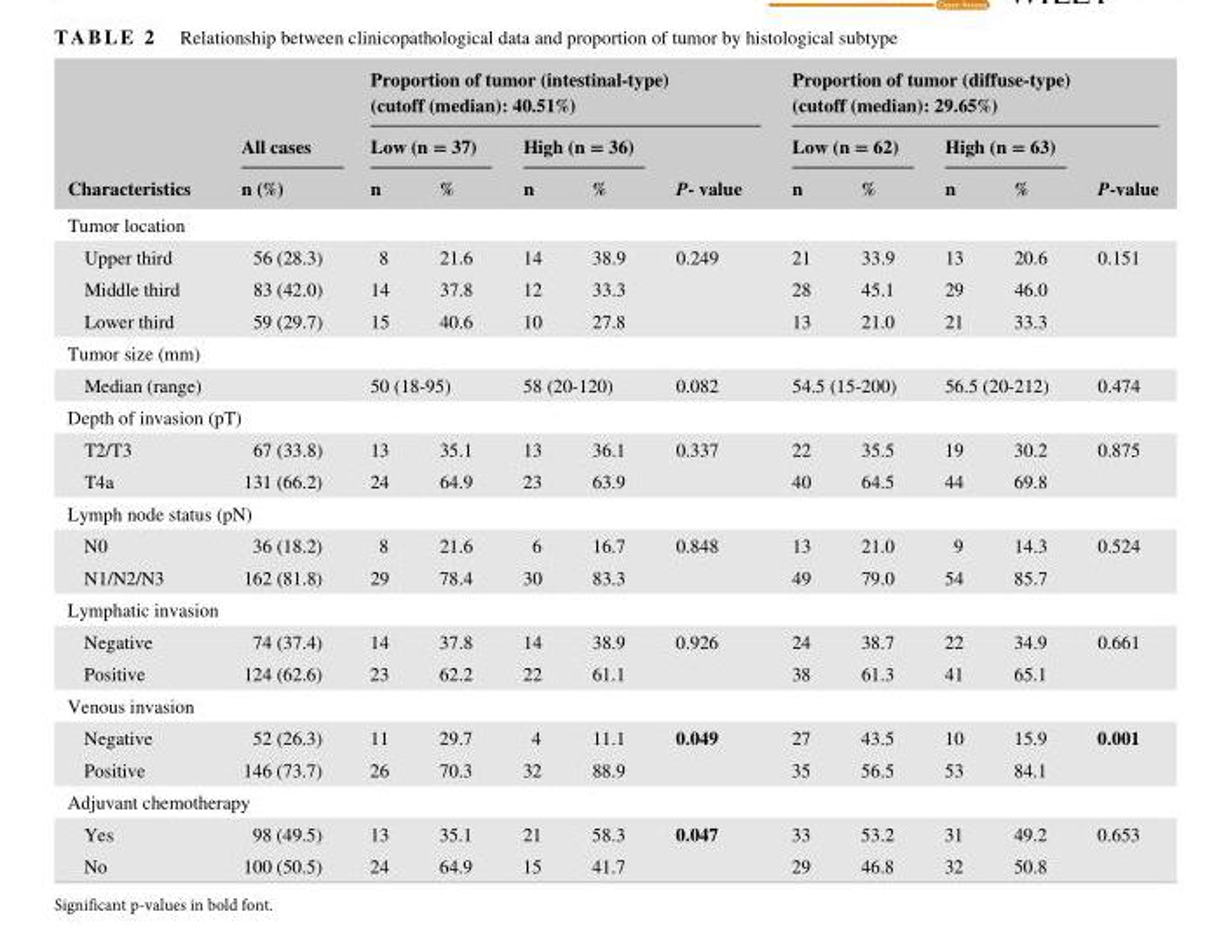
<table><thead><tr><td rowspan="3">Characteristics</td><td rowspan="3">All cases n (%)</td><td colspan="5">Proportion of tumor (intestinal-type) (cutoff (median): 40.51%)</td><td colspan="5">Proportion of tumor (diffuse-type) (cutoff (median): 29.65%)</td></tr><tr><td colspan="2">Low (n = 37)</td><td colspan="2">High (n = 36)</td><td rowspan="2">P- value</td><td colspan="2">Low (n = 62)</td><td colspan="2">High (n = 63)</td><td rowspan="2">P- value</td></tr><tr><td>n</td><td>%</td><td>n</td><td>%</td><td>n</td><td>%</td><td>n</td><td>%</td></tr></thead><tbody><tr><td colspan="12">Tumor location</td></tr><tr><td>Upper third</td><td>56 (28.3)</td><td>8</td><td>21.6</td><td>14</td><td>38.9</td><td rowspan="3">0.249</td><td>21</td><td>33.9</td><td>13</td><td>20.6</td><td rowspan="3">0.151</td></tr><tr><td>Middle third</td><td>83 (42.0)</td><td>14</td><td>37.8</td><td>12</td><td>33.3</td><td>28</td><td>45.1</td><td>29</td><td>46.0</td></tr><tr><td>Lower third</td><td>59 (29.7)</td><td>15</td><td>40.6</td><td>10</td><td>27.8</td><td>13</td><td>21.0</td><td>21</td><td>33.3</td></tr><tr><td colspan="12">Tumor size (mm)</td></tr><tr><td>Median (range)</td><td></td><td colspan="2">50 (18- 95)</td><td colspan="2">58 (20- 120)</td><td>0.082</td><td colspan="2">54.5 (15- 200)</td><td colspan="2">56.5 (20- 212)</td><td>0.474</td></tr><tr><td colspan="12">Depth of invasion (pT)</td></tr><tr><td>T2/T3</td><td>67 (33.8)</td><td>13</td><td>35.1</td><td>13</td><td>36.1</td><td rowspan="2">0.337</td><td>22</td><td>35.5</td><td>19</td><td>30.2</td><td rowspan="2">0.875</td></tr><tr><td>T4a</td><td>131 (66.2)</td><td>24</td><td>64.9</td><td>23</td><td>63.9</td><td>40</td><td>64.5</td><td>44</td><td>69.8</td></tr><tr><td colspan="12">Lymph node status (pN)</td></tr><tr><td>N0</td><td>36 (18.2)</td><td>8</td><td>21.6</td><td>6</td><td>16.7</td><td rowspan="2">0.848</td><td>13</td><td>21.0</td><td>9</td><td>14.3</td><td rowspan="2">0.524</td></tr><tr><td>N1/N2/N3</td><td>162 (81.8)</td><td>29</td><td>78.4</td><td>30</td><td>83.3</td><td>49</td><td>79.0</td><td>54</td><td>85.7</td></tr><tr><td colspan="12">Lymphatic invasion</td></tr><tr><td>Negative</td><td>74 (37.4)</td><td>14</td><td>37.8</td><td>14</td><td>38.9</td><td rowspan="2">0.926</td><td>24</td><td>38.7</td><td>22</td><td>34.9</td><td rowspan="2">0.661</td></tr><tr><td>Positive</td><td>124 (62.6)</td><td>23</td><td>62.2</td><td>22</td><td>61.1</td><td>38</td><td>61.3</td><td>41</td><td>65.1</td></tr><tr><td colspan="12">Venous invasion</td></tr><tr><td>Negative</td><td>52 (26.3)</td><td>11</td><td>29.7</td><td>4</td><td>11.1</td><td rowspan="2">0.049</td><td>27</td><td>43.5</td><td>10</td><td>15.9</td><td rowspan="2">0.001</td></tr><tr><td>Positive</td><td>146 (73.7)</td><td>26</td><td>70.3</td><td>32</td><td>88.9</td><td>35</td><td>56.5</td><td>53</td><td>84.1</td></tr><tr><td colspan="12">Adjuvant chemotherapy</td></tr><tr><td>Yes</td><td>98 (49.5)</td><td>13</td><td>35.1</td><td>21</td><td>58.3</td><td rowspan="2">0.047</td><td>33</td><td>53.2</td><td>31</td><td>49.2</td><td rowspan="2">0.653</td></tr><tr><td>No</td><td>100 (50.5)</td><td>24</td><td>64.9</td><td>15</td><td>41.7</td><td>29</td><td>46.8</td><td>32</td><td>50.8</td></tr></tbody></table>